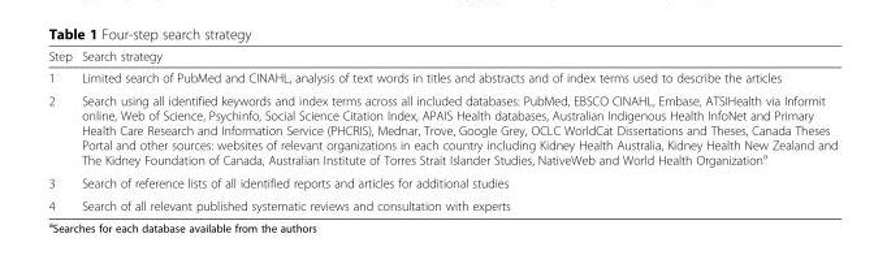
<table><thead><tr><td>Step</td><td>Search strategy</td></tr></thead><tbody><tr><td>1</td><td>Limited search of PubMed and CINAHL, analysis of text words in titles and abstracts and of index terms used to describe the articles</td></tr><tr><td>2</td><td>Search using all identified keywords and index terms across all included databases: PubMed, EBSCO CINAHL, Embase, ATSIHealth via Informit online, Web of Science, Psychinfo, Social Science Citation Index, APAIS Health databases, Australian Indigenous Health InfoNet and Primary Health Care Research and Information Service (PHCRIS), Mednar, Trove, Google Grey, OCLC WorldCat Dissertations and Theses, Canada Theses Portal and other sources: websites of relevant organizations in each country including Kidney Health Australia, Kidney Health New Zealand and The Kidney Foundation of Canada, Australian Institute of Torres Strait Islander Studies, NativeWeb and World Health Organization<sup>a</sup></td></tr><tr><td>3</td><td>Search of reference lists of all identified reports and articles for additional studies</td></tr><tr><td>4</td><td>Search of all relevant published systematic reviews and consultation with experts</td></tr></tbody></table>